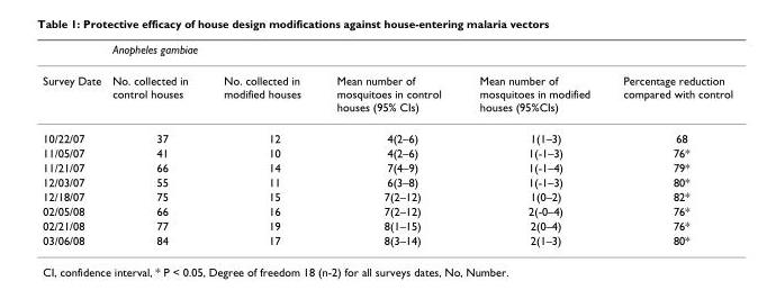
<table><thead><tr><td rowspan="2">Survey Date</td><td colspan="5">Anopheles gambiae</td></tr><tr><td>No. collected in control houses</td><td>No. collected in modified houses</td><td>Mean number of mosquitoes in control houses (95% CIs)</td><td>Mean number of mosquitoes in modified houses (95%CIs)</td><td>Percentage reduction compared with control</td></tr></thead><tbody><tr><td>10/22/07</td><td>37</td><td>12</td><td>4(2–6)</td><td>1(1–3)</td><td>68</td></tr><tr><td>11/05/07</td><td>41</td><td>10</td><td>4(2–6)</td><td>1(-1–3)</td><td>76*</td></tr><tr><td>11/21/07</td><td>66</td><td>14</td><td>7(4–9)</td><td>1(-1–4)</td><td>79*</td></tr><tr><td>12/03/07</td><td>55</td><td>11</td><td>6(3–8)</td><td>1(-1–3)</td><td>80*</td></tr><tr><td>12/18/07</td><td>75</td><td>15</td><td>7(2–12)</td><td>1(0–2)</td><td>82*</td></tr><tr><td>02/05/08</td><td>66</td><td>16</td><td>7(2–12)</td><td>2(-0–4)</td><td>76*</td></tr><tr><td>02/21/08</td><td>77</td><td>19</td><td>8(1–15)</td><td>2(0–4)</td><td>76*</td></tr><tr><td>03/06/08</td><td>84</td><td>17</td><td>8(3–14)</td><td>2(1–3)</td><td>80*</td></tr></tbody></table>